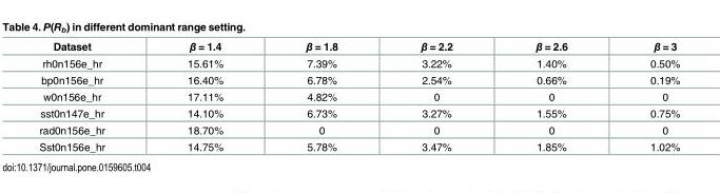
<table><thead><tr><td>Dataset</td><td>β = 1.4</td><td>β = 1.8</td><td>β = 2.2</td><td>β = 2.6</td><td>β = 3</td></tr></thead><tbody><tr><td>rh0n156e_hr</td><td>15.61%</td><td>7.39%</td><td>3.22%</td><td>1.40%</td><td>0.50%</td></tr><tr><td>bp0n156e_hr</td><td>16.40%</td><td>6.78%</td><td>2.54%</td><td>0.66%</td><td>0.19%</td></tr><tr><td>w0n156e_hr</td><td>17.11%</td><td>4.82%</td><td>0</td><td>0</td><td>0</td></tr><tr><td>sst0n147e_hr</td><td>14.10%</td><td>6.73%</td><td>3.27%</td><td>1.55%</td><td>0.75%</td></tr><tr><td>rad0n156e_hr</td><td>18.70%</td><td>0</td><td>0</td><td>0</td><td>0</td></tr><tr><td>Sst0n156e_hr</td><td>14.75%</td><td>5.78%</td><td>3.47%</td><td>1.85%</td><td>1.02%</td></tr></tbody></table>